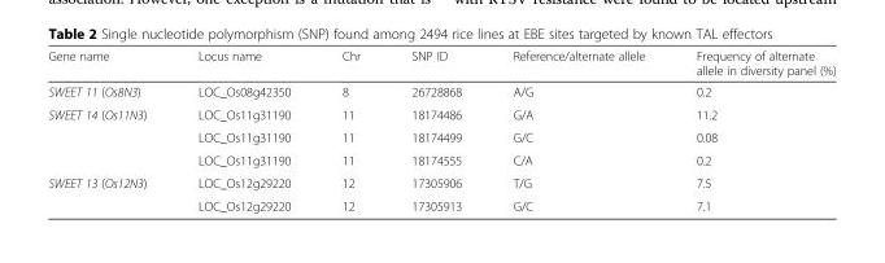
<table><thead><tr><td>Gene name</td><td>Locus name</td><td>Chr</td><td>SNP ID</td><td>Reference/alternate allele</td><td>Frequency of alternate allele in diversity panel (%)</td></tr></thead><tbody><tr><td>SWEET 11 (Os8N3)</td><td>LOC_Os08g42350</td><td>8</td><td>26728868</td><td>A/G</td><td>0.2</td></tr><tr><td rowspan="3">SWEET 14 (Os11N3)</td><td>LOC_Os11g31190</td><td>11</td><td>18174486</td><td>G/A</td><td>11.2</td></tr><tr><td>LOC_Os11g31190</td><td>11</td><td>18174499</td><td>G/C</td><td>0.08</td></tr><tr><td>LOC_Os11g31190</td><td>11</td><td>18174555</td><td>C/A</td><td>0.2</td></tr><tr><td rowspan="2">SWEET 13 (Os12N3)</td><td>LOC_Os12g29220</td><td>12</td><td>17305906</td><td>T/G</td><td>7.5</td></tr><tr><td>LOC_Os12g29220</td><td>12</td><td>17305913</td><td>G/C</td><td>7.1</td></tr></tbody></table>